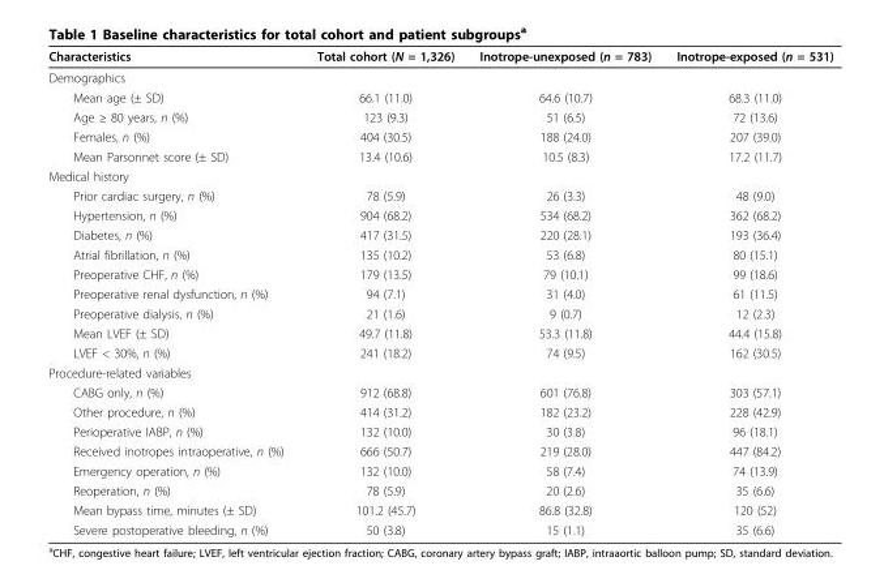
<table><thead><tr><td>Characteristics</td><td>Total cohort (N = 1,326)</td><td>Inotrope-unexposed (n = 783)</td><td>Inotrope-exposed (n = 531)</td></tr></thead><tbody><tr><td colspan="4">Demographics</td></tr><tr><td>Mean age (± SD)</td><td>66.1 (11.0)</td><td>64.6 (10.7)</td><td>68.3 (11.0)</td></tr><tr><td>Age ≥ 80 years, n (%)</td><td>123 (9.3)</td><td>51 (6.5)</td><td>72 (13.6)</td></tr><tr><td>Females, n (%)</td><td>404 (30.5)</td><td>188 (24.0)</td><td>207 (39.0)</td></tr><tr><td>Mean Parsonnet score (± SD)</td><td>13.4 (10.6)</td><td>10.5 (8.3)</td><td>17.2 (11.7)</td></tr><tr><td colspan="4">Medical history</td></tr><tr><td>Prior cardiac surgery, n (%)</td><td>78 (5.9)</td><td>26 (3.3)</td><td>48 (9.0)</td></tr><tr><td>Hypertension, n (%)</td><td>904 (68.2)</td><td>534 (68.2)</td><td>362 (68.2)</td></tr><tr><td>Diabetes, n (%)</td><td>417 (31.5)</td><td>220 (28.1)</td><td>193 (36.4)</td></tr><tr><td>Atrial fibrillation, n (%)</td><td>135 (10.2)</td><td>53 (6.8)</td><td>80 (15.1)</td></tr><tr><td>Preoperative CHF, n (%)</td><td>179 (13.5)</td><td>79 (10.1)</td><td>99 (18.6)</td></tr><tr><td>Preoperative renal dysfunction, n (%)</td><td>94 (7.1)</td><td>31 (4.0)</td><td>61 (11.5)</td></tr><tr><td>Preoperative dialysis, n (%)</td><td>21 (1.6)</td><td>9 (0.7)</td><td>12 (2.3)</td></tr><tr><td>Mean LVEF (± SD)</td><td>49.7 (11.8)</td><td>53.3 (11.8)</td><td>44.4 (15.8)</td></tr><tr><td>LVEF &lt; 30%, n (%)</td><td>241 (18.2)</td><td>74 (9.5)</td><td>162 (30.5)</td></tr><tr><td colspan="4">Procedure-related variables</td></tr><tr><td>CABG only, n (%)</td><td>912 (68.8)</td><td>601 (76.8)</td><td>303 (57.1)</td></tr><tr><td>Other procedure, n (%)</td><td>414 (31.2)</td><td>182 (23.2)</td><td>228 (42.9)</td></tr><tr><td>Perioperative IABP, n (%)</td><td>132 (10.0)</td><td>30 (3.8)</td><td>96 (18.1)</td></tr><tr><td>Received inotropes intraoperative, n (%)</td><td>666 (50.7)</td><td>219 (28.0)</td><td>447 (84.2)</td></tr><tr><td>Emergency operation, n (%)</td><td>132 (10.0)</td><td>58 (7.4)</td><td>74 (13.9)</td></tr><tr><td>Reoperation, n (%)</td><td>78 (5.9)</td><td>20 (2.6)</td><td>35 (6.6)</td></tr><tr><td>Mean bypass time, minutes (± SD)</td><td>101.2 (45.7)</td><td>86.8 (32.8)</td><td>120 (52)</td></tr><tr><td>Severe postoperative bleeding, n (%)</td><td>50 (3.8)</td><td>15 (1.1)</td><td>35 (6.6)</td></tr></tbody></table>